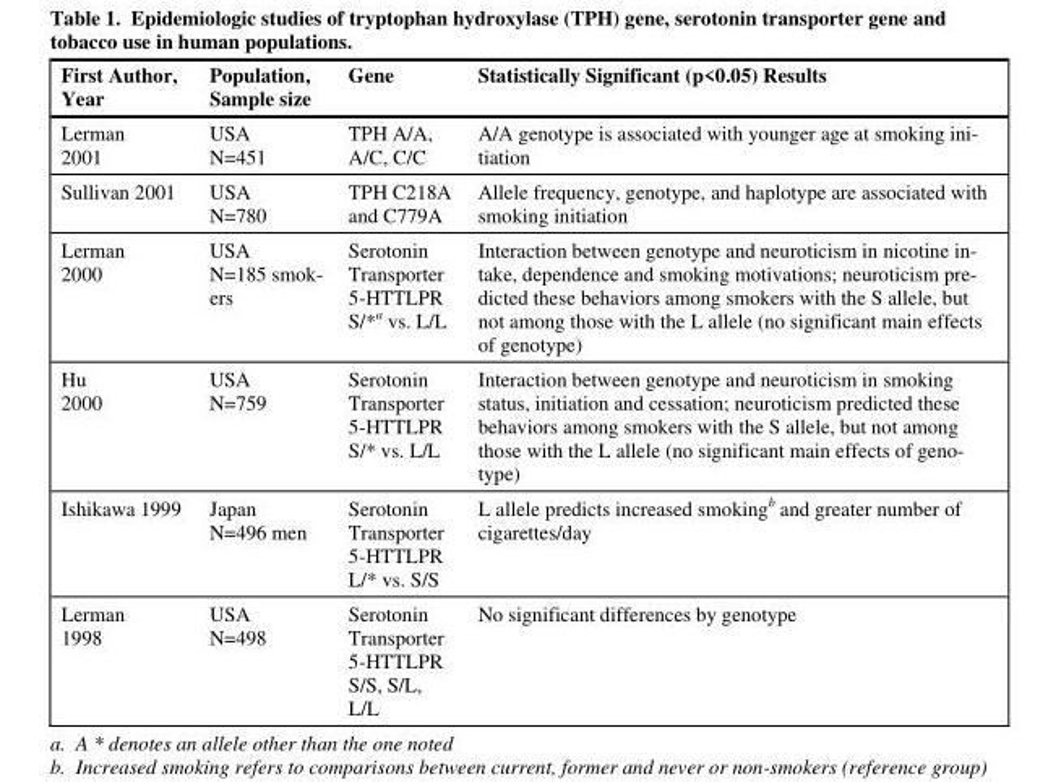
<table><thead><tr><td>First Author, Year</td><td>Population, Sample size</td><td>Gene</td><td>Statistically Significant (p&lt;0.05) Results</td></tr></thead><tbody><tr><td>Lerman 2001</td><td>USA N=451</td><td>TPH A/A, A/C, C/C</td><td>A/A genotype is associated with younger age at smoking ini- tiation</td></tr><tr><td>Sullivan 2001</td><td>USA N=780</td><td>TPH C218A and C779A</td><td>Allele frequency, genotype, and haplotype are associated with smoking initiation</td></tr><tr><td>Lerman 2000</td><td>USA N=185 smok- ers</td><td>Serotonin Transporter 5-HTTLPR S/*a vs. L/L</td><td>Interaction between genotype and neuroticism in nicotine in- take, dependence and smoking motivations; neuroticism pre- dicted these behaviors among smokers with the S allele, but not among those with the L allele (no significant main effects of genotype)</td></tr><tr><td>Hu 2000</td><td>USA N=759</td><td>Serotonin Transporter 5-HTTLPR S/* vs. L/L</td><td>Interaction between genotype and neuroticism in smoking status, initiation and cessation; neuroticism predicted these behaviors among smokers with the S allele, but not among those with the L allele (no significant main effects of geno- type)</td></tr><tr><td>Ishikawa 1999</td><td>Japan N=496 men</td><td>Serotonin Transporter 5-HTTLPR L/* vs. S/S</td><td>L allele predicts increased smokingb and greater number of cigarettes/day</td></tr><tr><td>Lerman 1998</td><td>USA N=498</td><td>Serotonin Transporter 5-HTTLPR S/S, S/L, L/L</td><td>No significant differences by genotype</td></tr></tbody></table>